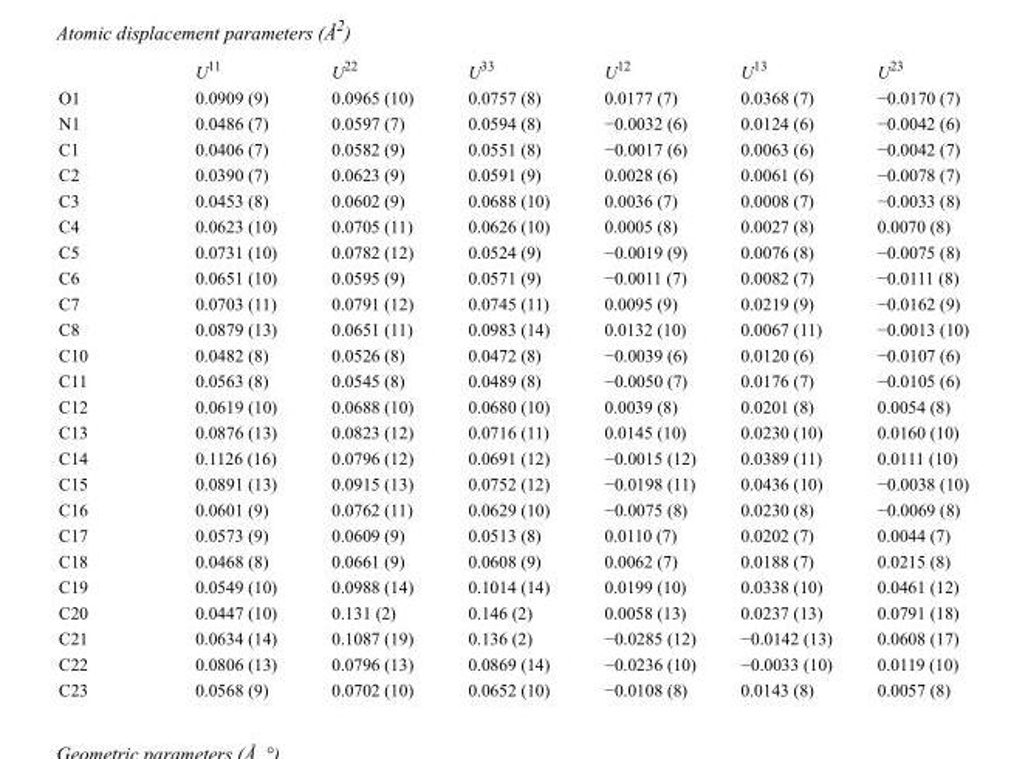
<table><thead><tr><td></td><td>U<sup>11</sup></td><td>U<sup>22</sup></td><td>U<sup>33</sup></td><td>U<sup>12</sup></td><td>U<sup>13</sup></td><td>U<sup>23</sup></td></tr></thead><tbody><tr><td>O1</td><td>0.0909 (9)</td><td>0.0965 (10)</td><td>0.0757 (8)</td><td>0.0177 (7)</td><td>0.0368 (7)</td><td>−0.0170 (7)</td></tr><tr><td>N1</td><td>0.0486 (7)</td><td>0.0597 (7)</td><td>0.0594 (8)</td><td>−0.0032 (6)</td><td>0.0124 (6)</td><td>−0.0042 (6)</td></tr><tr><td>C1</td><td>0.0406 (7)</td><td>0.0582 (9)</td><td>0.0551 (8)</td><td>−0.0017 (6)</td><td>0.0063 (6)</td><td>−0.0042 (7)</td></tr><tr><td>C2</td><td>0.0390 (7)</td><td>0.0623 (9)</td><td>0.0591 (9)</td><td>0.0028 (6)</td><td>0.0061 (6)</td><td>−0.0078 (7)</td></tr><tr><td>C3</td><td>0.0453 (8)</td><td>0.0602 (9)</td><td>0.0688 (10)</td><td>0.0036 (7)</td><td>0.0008 (7)</td><td>−0.0033 (8)</td></tr><tr><td>C4</td><td>0.0623 (10)</td><td>0.0705 (11)</td><td>0.0626 (10)</td><td>0.0005 (8)</td><td>0.0027 (8)</td><td>0.0070 (8)</td></tr><tr><td>C5</td><td>0.0731 (10)</td><td>0.0782 (12)</td><td>0.0524 (9)</td><td>−0.0019 (9)</td><td>0.0076 (8)</td><td>−0.0075 (8)</td></tr><tr><td>C6</td><td>0.0651 (10)</td><td>0.0595 (9)</td><td>0.0571 (9)</td><td>−0.0011 (7)</td><td>0.0082 (7)</td><td>−0.0111 (8)</td></tr><tr><td>C7</td><td>0.0703 (11)</td><td>0.0791 (12)</td><td>0.0745 (11)</td><td>0.0095 (9)</td><td>0.0219 (9)</td><td>−0.0162 (9)</td></tr><tr><td>C8</td><td>0.0879 (13)</td><td>0.0651 (11)</td><td>0.0983 (14)</td><td>0.0132 (10)</td><td>0.0067 (11)</td><td>−0.0013 (10)</td></tr><tr><td>C10</td><td>0.0482 (8)</td><td>0.0526 (8)</td><td>0.0472 (8)</td><td>−0.0039 (6)</td><td>0.0120 (6)</td><td>−0.0107 (6)</td></tr><tr><td>C11</td><td>0.0563 (8)</td><td>0.0545 (8)</td><td>0.0489 (8)</td><td>−0.0050 (7)</td><td>0.0176 (7)</td><td>−0.0105 (6)</td></tr><tr><td>C12</td><td>0.0619 (10)</td><td>0.0688 (10)</td><td>0.0680 (10)</td><td>0.0039 (8)</td><td>0.0201 (8)</td><td>0.0054 (8)</td></tr><tr><td>C13</td><td>0.0876 (13)</td><td>0.0823 (12)</td><td>0.0716 (11)</td><td>0.0145 (10)</td><td>0.0230 (10)</td><td>0.0160 (10)</td></tr><tr><td>C14</td><td>0.1126 (16)</td><td>0.0796 (12)</td><td>0.0691 (12)</td><td>−0.0015 (12)</td><td>0.0389 (11)</td><td>0.0111 (10)</td></tr><tr><td>C15</td><td>0.0891 (13)</td><td>0.0915 (13)</td><td>0.0752 (12)</td><td>−0.0198 (11)</td><td>0.0436 (10)</td><td>−0.0038 (10)</td></tr><tr><td>C16</td><td>0.0601 (9)</td><td>0.0762 (11)</td><td>0.0629 (10)</td><td>−0.0075 (8)</td><td>0.0230 (8)</td><td>−0.0069 (8)</td></tr><tr><td>C17</td><td>0.0573 (9)</td><td>0.0609 (9)</td><td>0.0513 (8)</td><td>0.0110 (7)</td><td>0.0202 (7)</td><td>0.0044 (7)</td></tr><tr><td>C18</td><td>0.0468 (8)</td><td>0.0661 (9)</td><td>0.0608 (9)</td><td>0.0062 (7)</td><td>0.0188 (7)</td><td>0.0215 (8)</td></tr><tr><td>C19</td><td>0.0549 (10)</td><td>0.0988 (14)</td><td>0.1014 (14)</td><td>0.0199 (10)</td><td>0.0338 (10)</td><td>0.0461 (12)</td></tr><tr><td>C20</td><td>0.0447 (10)</td><td>0.131 (2)</td><td>0.146 (2)</td><td>0.0058 (13)</td><td>0.0237 (13)</td><td>0.0791 (18)</td></tr><tr><td>C21</td><td>0.0634 (14)</td><td>0.1087 (19)</td><td>0.136 (2)</td><td>−0.0285 (12)</td><td>−0.0142 (13)</td><td>0.0608 (17)</td></tr><tr><td>C22</td><td>0.0806 (13)</td><td>0.0796 (13)</td><td>0.0869 (14)</td><td>−0.0236 (10)</td><td>−0.0033 (10)</td><td>0.0119 (10)</td></tr><tr><td>C23</td><td>0.0568 (9)</td><td>0.0702 (10)</td><td>0.0652 (10)</td><td>−0.0108 (8)</td><td>0.0143 (8)</td><td>0.0057 (8)</td></tr></tbody></table>